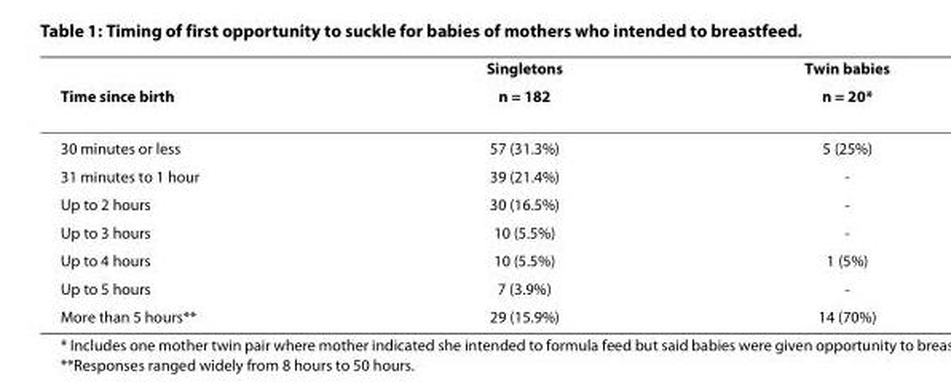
<table><thead><tr><td rowspan="2">Time since birth</td><td rowspan="2">Singletons n = 182</td><td rowspan="2">Twin babies n = 20*</td></tr><tr></tr></thead><tbody><tr><td>30 minutes or less</td><td>57 (31.3%)</td><td>5 (25%)</td></tr><tr><td>31 minutes to 1 hour</td><td>39 (21.4%)</td><td>-</td></tr><tr><td>Up to 2 hours</td><td>30 (16.5%)</td><td>-</td></tr><tr><td>Up to 3 hours</td><td>10 (5.5%)</td><td>-</td></tr><tr><td>Up to 4 hours</td><td>10 (5.5%)</td><td>1 (5%)</td></tr><tr><td>Up to 5 hours</td><td>7 (3.9%)</td><td>-</td></tr><tr><td>More than 5 hours**</td><td>29 (15.9%)</td><td>14 (70%)</td></tr></tbody></table>